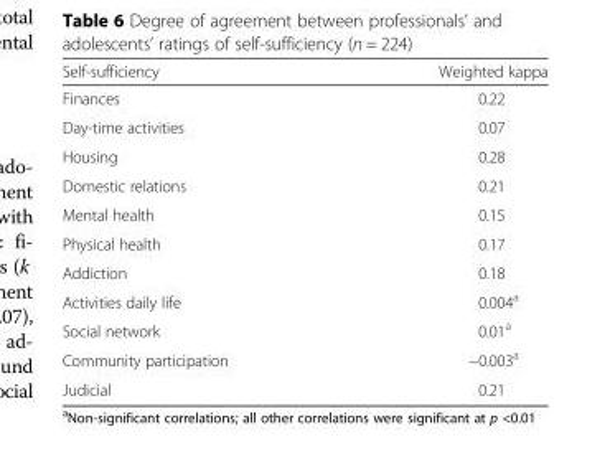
<table><thead><tr><td>Self-sufficiency</td><td>Weighted kappa</td></tr></thead><tbody><tr><td>Finances</td><td>0.22</td></tr><tr><td>Day-time activities</td><td>0.07</td></tr><tr><td>Housing</td><td>0.28</td></tr><tr><td>Domestic relations</td><td>0.21</td></tr><tr><td>Mental health</td><td>0.15</td></tr><tr><td>Physical health</td><td>0.17</td></tr><tr><td>Addiction</td><td>0.18</td></tr><tr><td>Activities daily life</td><td>0.004<sup>a</sup></td></tr><tr><td>Social network</td><td>0.01<sup>a</sup></td></tr><tr><td>Community participation</td><td>−0.003<sup>a</sup></td></tr><tr><td>Judicial</td><td>0.21</td></tr></tbody></table>